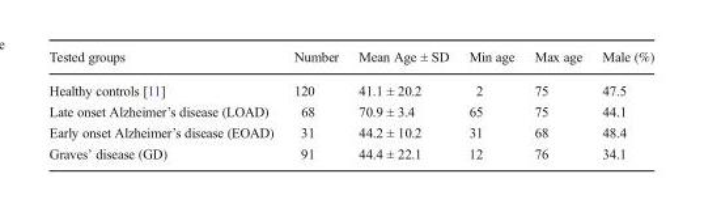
<table><thead><tr><td>Tested groups</td><td>Number</td><td>Mean Age ± SD</td><td>Min age</td><td>Max age</td><td>Male (%)</td></tr></thead><tbody><tr><td>Healthy controls [11]</td><td>120</td><td>41.1 ± 20.2</td><td>2</td><td>75</td><td>47.5</td></tr><tr><td>Late onset Alzheimer’s disease (LOAD)</td><td>68</td><td>70.9 ± 3.4</td><td>65</td><td>75</td><td>44.1</td></tr><tr><td>Early onset Alzheimer’s disease (EOAD)</td><td>31</td><td>44.2 ± 10.2</td><td>31</td><td>68</td><td>48.4</td></tr><tr><td>Graves’ disease (GD)</td><td>91</td><td>44.4 ± 22.1</td><td>12</td><td>76</td><td>34.1</td></tr></tbody></table>